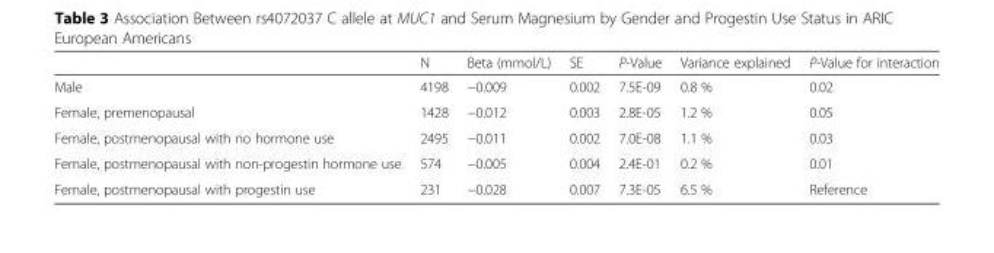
<table><thead><tr><td></td><td>N</td><td>Beta (mmol/L)</td><td>SE</td><td>P-Value</td><td>Variance explained</td><td>P-Value for interaction</td></tr></thead><tbody><tr><td>Male</td><td>4198</td><td>−0.009</td><td>0.002</td><td>7.5E-09</td><td>0.8 %</td><td>0.02</td></tr><tr><td>Female, premenopausal</td><td>1428</td><td>−0.012</td><td>0.003</td><td>2.8E-05</td><td>1.2 %</td><td>0.05</td></tr><tr><td>Female, postmenopausal with no hormone use</td><td>2495</td><td>−0.011</td><td>0.002</td><td>7.0E-08</td><td>1.1 %</td><td>0.03</td></tr><tr><td>Female, postmenopausal with non-progestin hormone use</td><td>574</td><td>−0.005</td><td>0.004</td><td>2.4E-01</td><td>0.2 %</td><td>0.01</td></tr><tr><td>Female, postmenopausal with progestin use</td><td>231</td><td>−0.028</td><td>0.007</td><td>7.3E-05</td><td>6.5 %</td><td>Reference</td></tr></tbody></table>